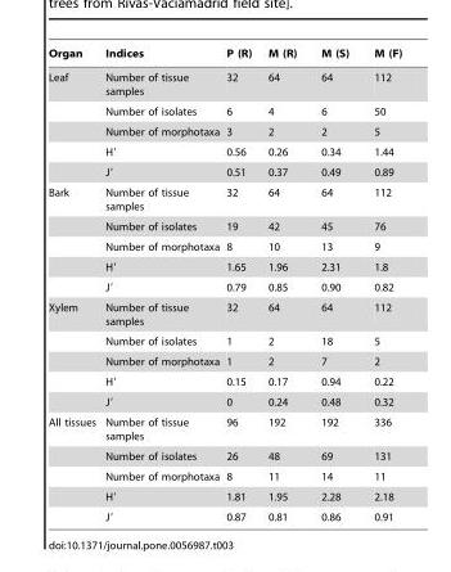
<table><thead><tr><td>Organ</td><td>Indices</td><td>P (R)</td><td>M (R)</td><td>M (S)</td><td>M (F)</td></tr></thead><tbody><tr><td rowspan="5">Leaf</td><td>Number of tissue samples</td><td>32</td><td>64</td><td>64</td><td>112</td></tr><tr><td>Number of isolates</td><td>6</td><td>4</td><td>6</td><td>50</td></tr><tr><td>Number of morphotaxa</td><td>3</td><td>2</td><td>2</td><td>5</td></tr><tr><td>H′</td><td>0.56</td><td>0.26</td><td>0.34</td><td>1.44</td></tr><tr><td>J′</td><td>0.51</td><td>0.37</td><td>0.49</td><td>0.89</td></tr><tr><td rowspan="5">Bark</td><td>Number of tissue samples</td><td>32</td><td>64</td><td>64</td><td>112</td></tr><tr><td>Number of isolates</td><td>19</td><td>42</td><td>45</td><td>76</td></tr><tr><td>Number of morphotaxa</td><td>8</td><td>10</td><td>13</td><td>9</td></tr><tr><td>H′</td><td>1.65</td><td>1.96</td><td>2.31</td><td>1.8</td></tr><tr><td>J′</td><td>0.79</td><td>0.85</td><td>0.90</td><td>0.82</td></tr><tr><td rowspan="5">Xylem</td><td>Number of tissue samples</td><td>32</td><td>64</td><td>64</td><td>112</td></tr><tr><td>Number of isolates</td><td>1</td><td>2</td><td>18</td><td>5</td></tr><tr><td>Number of morphotaxa</td><td>1</td><td>2</td><td>7</td><td>2</td></tr><tr><td>H′</td><td>0.15</td><td>0.17</td><td>0.94</td><td>0.22</td></tr><tr><td>J′</td><td>0</td><td>0.24</td><td>0.48</td><td>0.32</td></tr><tr><td rowspan="5">All tissues</td><td>Number of tissue samples</td><td>96</td><td>192</td><td>192</td><td>336</td></tr><tr><td>Number of isolates</td><td>26</td><td>48</td><td>69</td><td>131</td></tr><tr><td>Number of morphotaxa</td><td>8</td><td>11</td><td>14</td><td>11</td></tr><tr><td>H′</td><td>1.81</td><td>1.95</td><td>2.28</td><td>2.18</td></tr><tr><td>J′</td><td>0.87</td><td>0.81</td><td>0.86</td><td>0.91</td></tr></tbody></table>